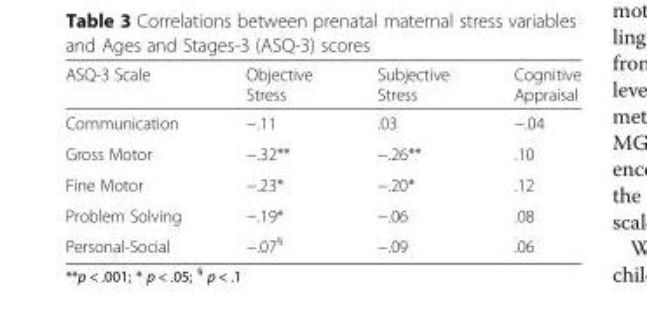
<table><thead><tr><td>ASQ-3 Scale</td><td>Objective Stress</td><td>Subjective Stress</td><td>Cognitive Appraisal</td></tr></thead><tbody><tr><td>Communication</td><td>−.11</td><td>.03</td><td>−.04</td></tr><tr><td>Gross Motor</td><td>−.32**</td><td>−.26**</td><td>.10</td></tr><tr><td>Fine Motor</td><td>−.23*</td><td>−.20*</td><td>.12</td></tr><tr><td>Problem Solving</td><td>−.19*</td><td>−.06</td><td>.08</td></tr><tr><td>Personal-Social</td><td>−.07<sup>§</sup></td><td>−.09</td><td>.06</td></tr></tbody></table>